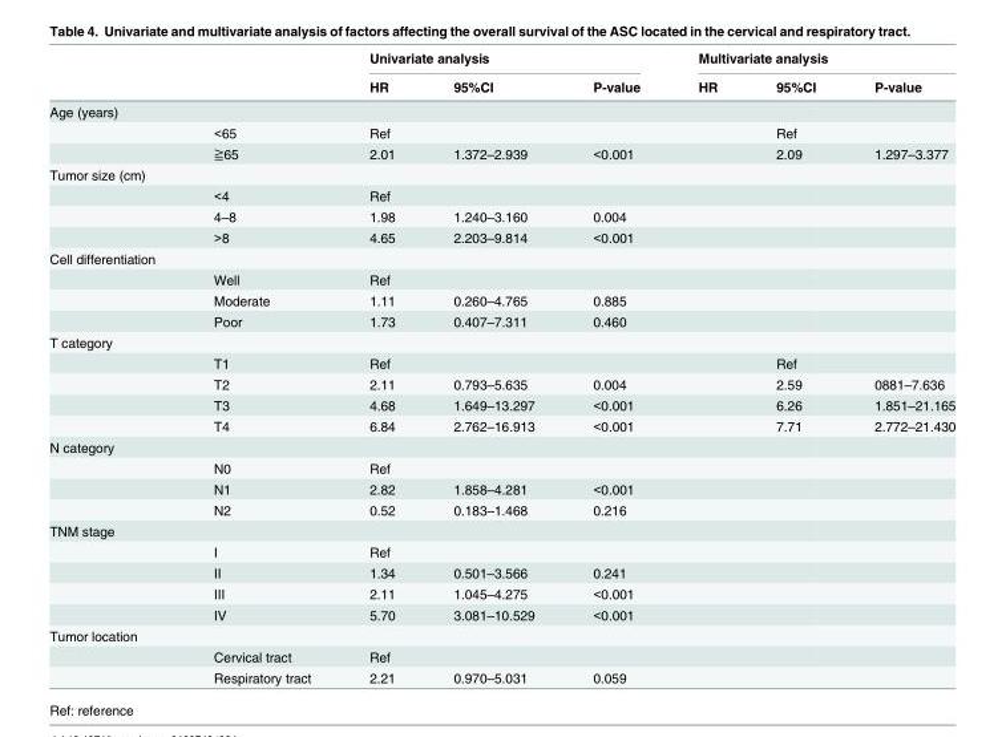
<table><thead><tr><td rowspan="2"></td><td rowspan="2"></td><td colspan="3">Univariate analysis</td><td colspan="3">Multivariate analysis</td></tr><tr><td>HR</td><td>95%CI</td><td>P-value</td><td>HR</td><td>95%CI</td><td>P-value</td></tr></thead><tbody><tr><td colspan="8">Age (years)</td></tr><tr><td></td><td>&lt;65</td><td>Ref</td><td></td><td></td><td></td><td>Ref</td><td></td></tr><tr><td></td><td>≧65</td><td>2.01</td><td>1.372–2.939</td><td>&lt;0.001</td><td></td><td>2.09</td><td>1.297–3.377</td></tr><tr><td colspan="8">Tumor size (cm)</td></tr><tr><td></td><td>&lt;4</td><td>Ref</td><td></td><td></td><td></td><td></td><td></td></tr><tr><td></td><td>4–8</td><td>1.98</td><td>1.240–3.160</td><td>0.004</td><td></td><td></td><td></td></tr><tr><td></td><td>&gt;8</td><td>4.65</td><td>2.203–9.814</td><td>&lt;0.001</td><td></td><td></td><td></td></tr><tr><td colspan="8">Cell differentiation</td></tr><tr><td></td><td>Well</td><td>Ref</td><td></td><td></td><td></td><td></td><td></td></tr><tr><td></td><td>Moderate</td><td>1.11</td><td>0.260–4.765</td><td>0.885</td><td></td><td></td><td></td></tr><tr><td></td><td>Poor</td><td>1.73</td><td>0.407–7.311</td><td>0.460</td><td></td><td></td><td></td></tr><tr><td colspan="8">T category</td></tr><tr><td></td><td>T1</td><td>Ref</td><td></td><td></td><td></td><td>Ref</td><td></td></tr><tr><td></td><td>T2</td><td>2.11</td><td>0.793–5.635</td><td>0.004</td><td></td><td>2.59</td><td>0881–7.636</td></tr><tr><td></td><td>T3</td><td>4.68</td><td>1.649–13.297</td><td>&lt;0.001</td><td></td><td>6.26</td><td>1.851–21.165</td></tr><tr><td></td><td>T4</td><td>6.84</td><td>2.762–16.913</td><td>&lt;0.001</td><td></td><td>7.71</td><td>2.772–21.430</td></tr><tr><td colspan="8">N category</td></tr><tr><td></td><td>N0</td><td>Ref</td><td></td><td></td><td></td><td></td><td></td></tr><tr><td></td><td>N1</td><td>2.82</td><td>1.858–4.281</td><td>&lt;0.001</td><td></td><td></td><td></td></tr><tr><td></td><td>N2</td><td>0.52</td><td>0.183–1.468</td><td>0.216</td><td></td><td></td><td></td></tr><tr><td colspan="8">TNM stage</td></tr><tr><td></td><td>I</td><td>Ref</td><td></td><td></td><td></td><td></td><td></td></tr><tr><td></td><td>II</td><td>1.34</td><td>0.501–3.566</td><td>0.241</td><td></td><td></td><td></td></tr><tr><td></td><td>III</td><td>2.11</td><td>1.045–4.275</td><td>&lt;0.001</td><td></td><td></td><td></td></tr><tr><td></td><td>IV</td><td>5.70</td><td>3.081–10.529</td><td>&lt;0.001</td><td></td><td></td><td></td></tr><tr><td colspan="8">Tumor location</td></tr><tr><td></td><td>Cervical tract</td><td>Ref</td><td></td><td></td><td></td><td></td><td></td></tr><tr><td></td><td>Respiratory tract</td><td>2.21</td><td>0.970–5.031</td><td>0.059</td><td></td><td></td><td></td></tr></tbody></table>